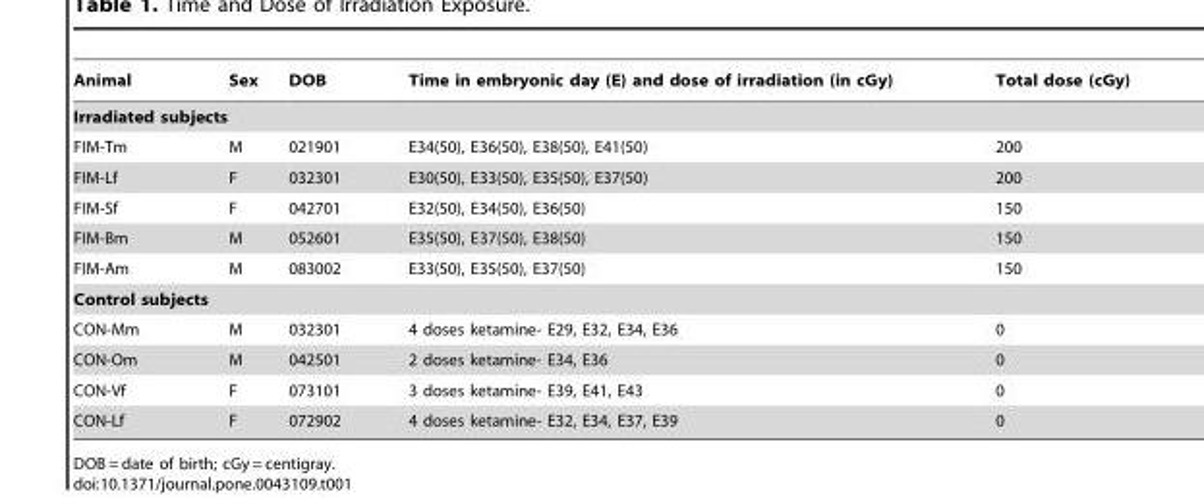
<table><thead><tr><td>Animal</td><td>Sex</td><td>DOB</td><td>Time in embryonic day (E) and dose of irradiation (in cGy)</td><td>Total dose (cGy)</td></tr></thead><tbody><tr><td colspan="5">Irradiated subjects</td></tr><tr><td>FIM-Tm</td><td>M</td><td>021901</td><td>E34(50), E36(50), E38(50), E41(50)</td><td>200</td></tr><tr><td>FIM-Lf</td><td>F</td><td>032301</td><td>E30(50), E33(50), E35(50), E37(50)</td><td>200</td></tr><tr><td>FIM-Sf</td><td>F</td><td>042701</td><td>E32(50), E34(50), E36(50)</td><td>150</td></tr><tr><td>FIM-Bm</td><td>M</td><td>052601</td><td>E35(50), E37(50), E38(50)</td><td>150</td></tr><tr><td>FIM-Am</td><td>M</td><td>083002</td><td>E33(50), E35(50), E37(50)</td><td>150</td></tr><tr><td colspan="5">Control subjects</td></tr><tr><td>CON-Mm</td><td>M</td><td>032301</td><td>4 doses ketamine- E29, E32, E34, E36</td><td>0</td></tr><tr><td>CON-Om</td><td>M</td><td>042501</td><td>2 doses ketamine- E34, E36</td><td>0</td></tr><tr><td>CON-Vf</td><td>F</td><td>073101</td><td>3 doses ketamine- E39, E41, E43</td><td>0</td></tr><tr><td>CON-Lf</td><td>F</td><td>072902</td><td>4 doses ketamine- E32, E34, E37, E39</td><td>0</td></tr></tbody></table>